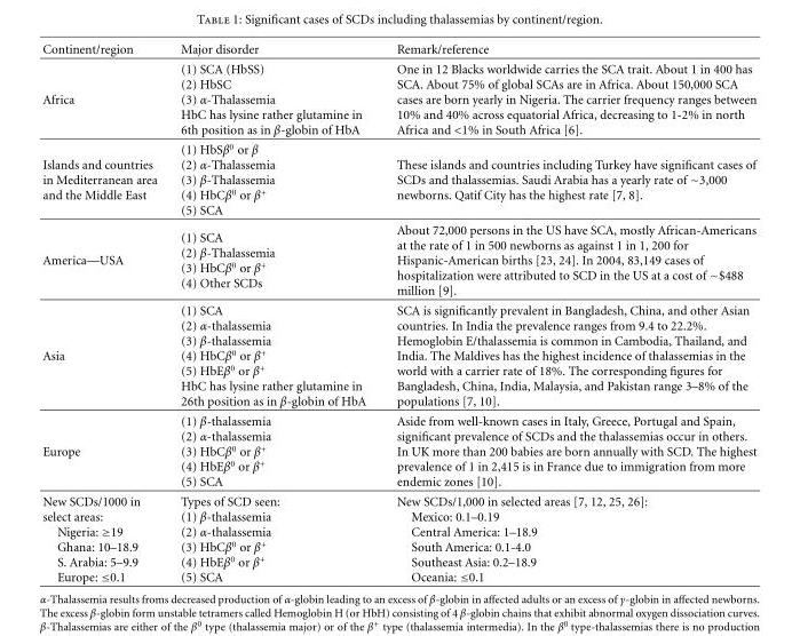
<table><thead><tr><td>Continent/region</td><td>Major disorder</td><td>Remark/reference</td></tr></thead><tbody><tr><td>Africa</td><td>(1) SCA (HbSS) (2) HbSC (3) α-Thalassemia HbC has lysine rather glutamine in 6th position as in β-globin of HbA</td><td>One in 12 Blacks worldwide carries the SCA trait. About 1 in 400 has SCA. About 75% of global SCAs are in Africa. About 150,000 SCA cases are born yearly in Nigeria. The carrier frequency ranges between 10% and 40% across equatorial Africa, decreasing to 1-2% in north Africa and &lt;1% in South Africa [6].</td></tr><tr><td>Islands and countries in Mediterranean area and the Middle East</td><td>(1) HbSβ0 or β (2) α-Thalassemia (3) β-Thalassemia (4) HbCβ0 or β+ (5) SCA</td><td>These islands and countries including Turkey have significant cases of SCDs and thalassemias. Saudi Arabia has a yearly rate of ∼3,000 newborns. Qatif City has the highest rate [7, 8].</td></tr><tr><td>America—USA</td><td>(1) SCA (2) β-Thalassemia (3) HbCβ0 or β+ (4) Other SCDs</td><td>About 72,000 persons in the US have SCA, mostly African-Americans at the rate of 1 in 500 newborns as against 1 in 1, 200 for Hispanic-American births [23, 24]. In 2004, 83,149 cases of hospitalization were attributed to SCD in the US at a cost of ∼$488 million [9].</td></tr><tr><td>Asia</td><td>(1) SCA (2) α-thalassemia (3) β-thalassemia (4) HbCβ0 or β+ (5) HbEβ0 or β+ HbC has lysine rather glutamine in 26th position as in β-globin of HbA</td><td>SCA is significantly prevalent in Bangladesh, China, and other Asian countries. In India the prevalence ranges from 9.4 to 22.2%. Hemoglobin E/thalassemia is common in Cambodia, Thailand, and India. The Maldives has the highest incidence of thalassemias in the world with a carrier rate of 18%. The corresponding figures for Bangladesh, China, India, Malaysia, and Pakistan range 3–8% of the populations [7, 10].</td></tr><tr><td>Europe</td><td>(1) β-thalassemia (2) α-thalassemia (3) HbCβ0 or β+ (4) HbEβ0 or β+ (5) SCA</td><td>Aside from well-known cases in Italy, Greece, Portugal and Spain, significant prevalence of SCDs and the thalassemias occur in others. In UK more than 200 babies are born annually with SCD. The highest prevalence of 1 in 2,415 is in France due to immigration from more endemic zones [10].</td></tr><tr><td>New SCDs/1000 in select areas: Nigeria: ≥19 Ghana: 10–18.9 S. Arabia: 5–9.9 Europe: ≤0.1</td><td>Types of SCD seen: (1) β-thalassemia (2) α-thalassemia (3) HbCβ0 or β+ (4) HbEβ0 or β+ (5) SCA</td><td>New SCDs/1,000 in selected areas [7, 12, 25, 26]: Mexico: 0.1–0.19 Central America: 1–18.9 South America: 0.1-4.0 Southeast Asia: 0.2–18.9 Oceania: ≤0.1</td></tr></tbody></table>